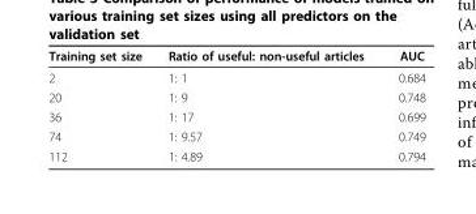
<table><thead><tr><td>Training set size</td><td>Ratio of useful: non-useful articles</td><td>AUC</td></tr></thead><tbody><tr><td>2</td><td>1: 1</td><td>0.684</td></tr><tr><td>20</td><td>1: 9</td><td>0.748</td></tr><tr><td>36</td><td>1: 17</td><td>0.699</td></tr><tr><td>74</td><td>1: 9.57</td><td>0.749</td></tr><tr><td>112</td><td>1: 4.89</td><td>0.794</td></tr></tbody></table>